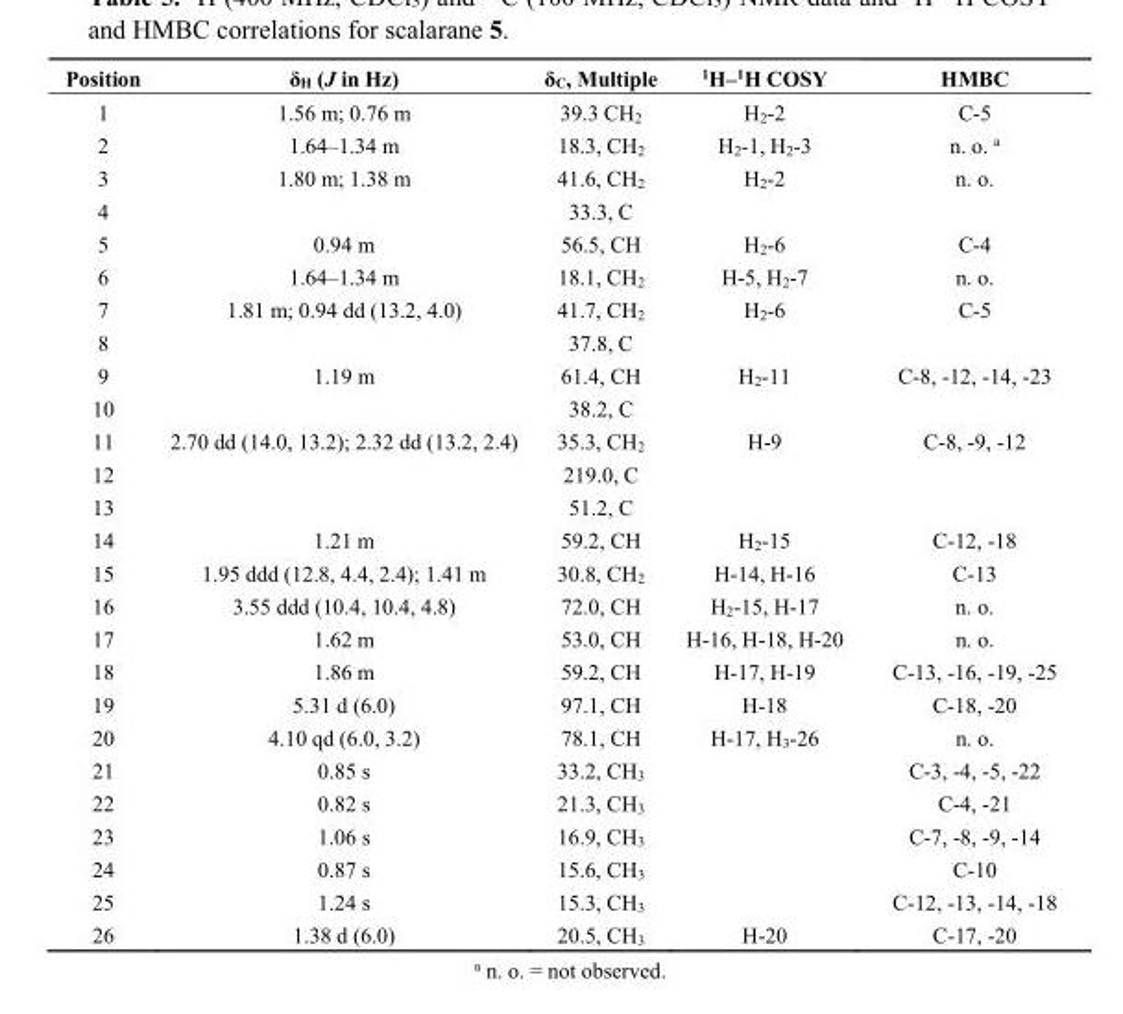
<table><thead><tr><td>Position</td><td>δ<sub>H</sub> (J in Hz)</td><td>δ<sub>C</sub>, Multiple</td><td><sup>1</sup>H–<sup>1</sup>H COSY</td><td>HMBC</td></tr></thead><tbody><tr><td>1</td><td>1.56 m; 0.76 m</td><td>39.3 CH<sub>2</sub></td><td>H<sub>2</sub>-2</td><td>C-5</td></tr><tr><td>2</td><td>1.64–1.34 m</td><td>18.3, CH<sub>2</sub></td><td>H<sub>2</sub>-1, H<sub>2</sub>-3</td><td>n. o. <sup>a</sup></td></tr><tr><td>3</td><td>1.80 m; 1.38 m</td><td>41.6, CH<sub>2</sub></td><td>H<sub>2</sub>-2</td><td>n. o.</td></tr><tr><td>4</td><td></td><td>33.3, C</td><td></td><td></td></tr><tr><td>5</td><td>0.94 m</td><td>56.5, CH</td><td>H<sub>2</sub>-6</td><td>C-4</td></tr><tr><td>6</td><td>1.64–1.34 m</td><td>18.1, CH<sub>2</sub></td><td>H-5, H<sub>2</sub>-7</td><td>n. o.</td></tr><tr><td>7</td><td>1.81 m; 0.94 dd (13.2, 4.0)</td><td>41.7, CH<sub>2</sub></td><td>H<sub>2</sub>-6</td><td>C-5</td></tr><tr><td>8</td><td></td><td>37.8, C</td><td></td><td></td></tr><tr><td>9</td><td>1.19 m</td><td>61.4, CH</td><td>H<sub>2</sub>-11</td><td>C-8, -12, -14, -23</td></tr><tr><td>10</td><td></td><td>38.2, C</td><td></td><td></td></tr><tr><td>11</td><td>2.70 dd (14.0, 13.2); 2.32 dd (13.2, 2.4)</td><td>35.3, CH<sub>2</sub></td><td>H-9</td><td>C-8, -9, -12</td></tr><tr><td>12</td><td></td><td>219.0, C</td><td></td><td></td></tr><tr><td>13</td><td></td><td>51.2, C</td><td></td><td></td></tr><tr><td>14</td><td>1.21 m</td><td>59.2, CH</td><td>H<sub>2</sub>-15</td><td>C-12, -18</td></tr><tr><td>15</td><td>1.95 ddd (12.8, 4.4, 2.4); 1.41 m</td><td>30.8, CH<sub>2</sub></td><td>H-14, H-16</td><td>C-13</td></tr><tr><td>16</td><td>3.55 ddd (10.4, 10.4, 4.8)</td><td>72.0, CH</td><td>H<sub>2</sub>-15, H-17</td><td>n. o.</td></tr><tr><td>17</td><td>1.62 m</td><td>53.0, CH</td><td>H-16, H-18, H-20</td><td>n. o.</td></tr><tr><td>18</td><td>1.86 m</td><td>59.2, CH</td><td>H-17, H-19</td><td>C-13, -16, -19, -25</td></tr><tr><td>19</td><td>5.31 d (6.0)</td><td>97.1, CH</td><td>H-18</td><td>C-18, -20</td></tr><tr><td>20</td><td>4.10 qd (6.0, 3.2)</td><td>78.1, CH</td><td>H-17, H<sub>3</sub>-26</td><td>n. o.</td></tr><tr><td>21</td><td>0.85 s</td><td>33.2, CH<sub>3</sub></td><td></td><td>C-3, -4, -5, -22</td></tr><tr><td>22</td><td>0.82 s</td><td>21.3, CH<sub>3</sub></td><td></td><td>C-4, -21</td></tr><tr><td>23</td><td>1.06 s</td><td>16.9, CH<sub>3</sub></td><td></td><td>C-7, -8, -9, -14</td></tr><tr><td>24</td><td>0.87 s</td><td>15.6, CH<sub>3</sub></td><td></td><td>C-10</td></tr><tr><td>25</td><td>1.24 s</td><td>15.3, CH<sub>3</sub></td><td></td><td>C-12, -13, -14, -18</td></tr><tr><td>26</td><td>1.38 d (6.0)</td><td>20.5, CH<sub>3</sub></td><td>H-20</td><td>C-17, -20</td></tr></tbody></table>